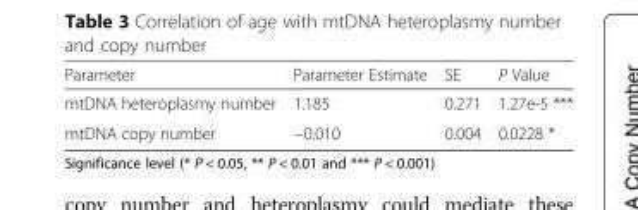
<table><thead><tr><td>Parameter</td><td>Parameter Estimate</td><td>SE</td><td>P Value</td></tr></thead><tbody><tr><td>mtDNA heteroplasmy number</td><td>1.185</td><td>0.271</td><td>1.27e-5 ***</td></tr><tr><td>mtDNA copy number</td><td>−0.010</td><td>0.004</td><td>0.0228 *</td></tr></tbody></table>